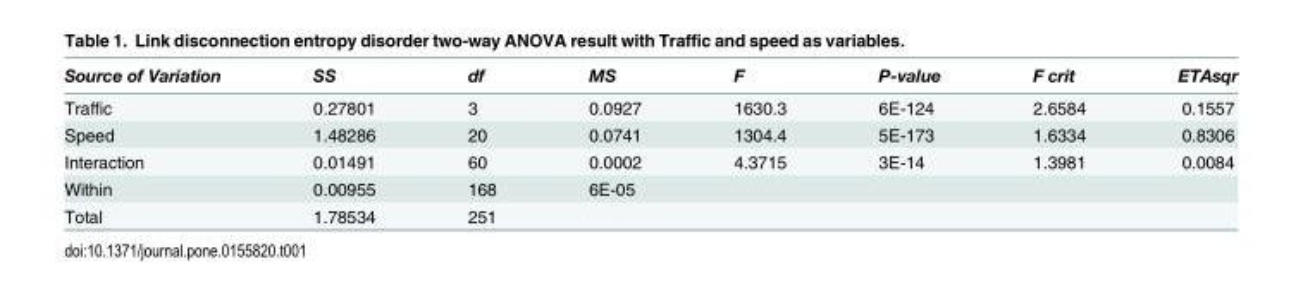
<table><thead><tr><td>Source of Variation</td><td>SS</td><td>df</td><td>MS</td><td>F</td><td>P-value</td><td>F crit</td><td>ETAsqr</td></tr></thead><tbody><tr><td>Traffic</td><td>0.27801</td><td>3</td><td>0.0927</td><td>1630.3</td><td>6E-124</td><td>2.6584</td><td>0.1557</td></tr><tr><td>Speed</td><td>1.48286</td><td>20</td><td>0.0741</td><td>1304.4</td><td>5E-173</td><td>1.6334</td><td>0.8306</td></tr><tr><td>Interaction</td><td>0.01491</td><td>60</td><td>0.0002</td><td>4.3715</td><td>3E-14</td><td>1.3981</td><td>0.0084</td></tr><tr><td>Within</td><td>0.00955</td><td>168</td><td>6E-05</td><td></td><td></td><td></td><td></td></tr><tr><td>Total</td><td>1.78534</td><td>251</td><td></td><td></td><td></td><td></td><td></td></tr></tbody></table>